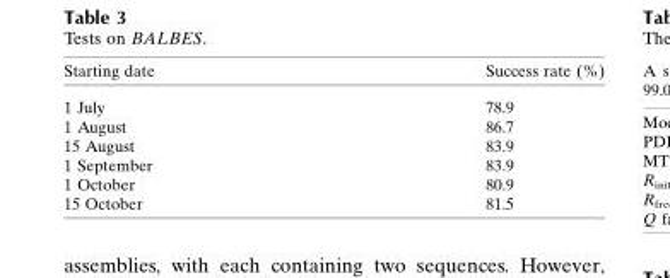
<table><thead><tr><td>Starting date</td><td>Success rate (%)</td></tr></thead><tbody><tr><td>1 July</td><td>78.9</td></tr><tr><td>1 August</td><td>86.7</td></tr><tr><td>15 August</td><td>83.9</td></tr><tr><td>1 September</td><td>83.9</td></tr><tr><td>1 October</td><td>80.9</td></tr><tr><td>15 October</td><td>81.5</td></tr></tbody></table>